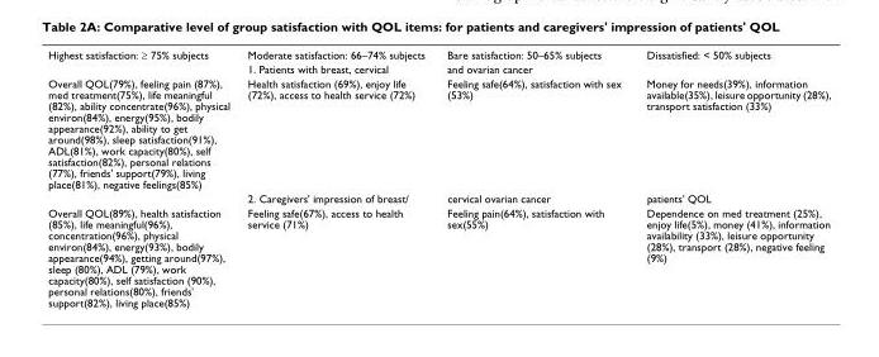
<table><tbody><tr><td rowspan="2">Highest satisfaction: ≥ 75% subjects</td><td>Moderate satisfaction: 66–74% subjects</td><td>Bare satisfaction: 50–65% subjects</td><td>Dissatisfied: &lt; 50% subjects</td></tr><tr><td>1. Patients with breast, cervical</td><td>and ovarian cancer</td><td></td></tr><tr><td rowspan="2">Overall QOL(79%), feeling pain (87%), med treatment(75%), life meaningful (82%), ability concentrate(96%), physical environ(84%), energy(95%), bodily appearance(92%), ability to get around(98%), sleep satisfaction(91%), ADL(81%), work capacity(80%), self satisfaction(82%), personal relations (77%), friends&#x27; support(79%), living place(81%), negative feelings(85%)</td><td>Health satisfaction (69%), enjoy life (72%), access to health service (72%)</td><td>Feeling safe(64%), satisfaction with sex (53%)</td><td>Money for needs(39%), information available(35%), leisure opportunity (28%), transport satisfaction (33%)</td></tr><tr><td>2. Caregivers&#x27; impression of breast/</td><td>cervical ovarian cancer</td><td>patients&#x27; QOL</td></tr><tr><td>Overall QOL(89%), health satisfaction (85%), life meaningful(96%), concentration(96%), physical environ(84%), energy(93%), bodily appearance(94%), getting around(97%), sleep (80%), ADL (79%), work capacity(80%), self satisfaction (90%), personal relations(80%), friends&#x27; support(82%), living place(85%)</td><td>Feeling safe(67%), access to health service (71%)</td><td>Feeling pain(64%), satisfaction with sex(55%)</td><td>Dependence on med treatment (25%), enjoy life(5%), money (41%), information availability (33%), leisure opportunity (28%), transport (28%), negative feeling (9%)</td></tr></tbody></table>